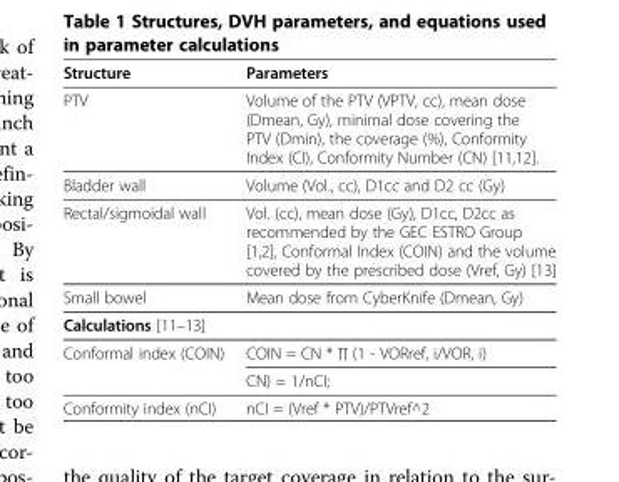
<table><thead><tr><td>Structure</td><td>Parameters</td></tr></thead><tbody><tr><td>PTV</td><td>Volume of the PTV (VPTV, cc), mean dose (Dmean, Gy), minimal dose covering the PTV (Dmin), the coverage (%), Conformity Index (CI), Conformity Number (CN) [11,12].</td></tr><tr><td>Bladder wall</td><td>Volume (Vol., cc), D1cc and D2 cc (Gy)</td></tr><tr><td>Rectal/sigmoidal wall</td><td>Vol. (cc), mean dose (Gy), D1cc, D2cc as recommended by the GEC ESTRO Group [1,2], Conformal Index (COIN) and the volume covered by the prescribed dose (Vref, Gy) [13]</td></tr><tr><td>Small bowel</td><td>Mean dose from CyberKnife (Dmean, Gy)</td></tr><tr><td colspan="2">Calculations [11–13]</td></tr><tr><td rowspan="2">Conformal index (COIN)</td><td>COIN = CN * ∏ (1 - VORref, i/VOR, i)</td></tr><tr><td>CN) = 1/nCI;</td></tr><tr><td>Conformity index (nCI)</td><td>nCI = (Vref * PTV)/PTVref^2</td></tr></tbody></table>